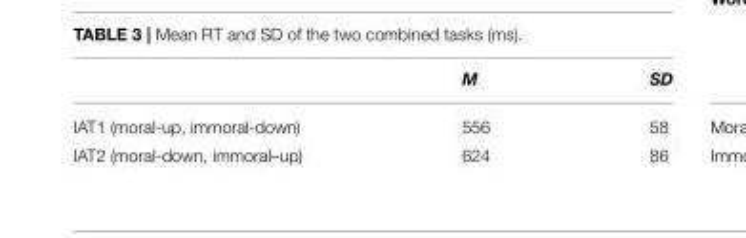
<table><thead><tr><td></td><td>M</td><td>SD</td></tr></thead><tbody><tr><td>IAT1 (moral-up, immoral-down)</td><td>556</td><td>58</td></tr><tr><td>IAT2 (moral-down, immoral–up)</td><td>624</td><td>86</td></tr></tbody></table>